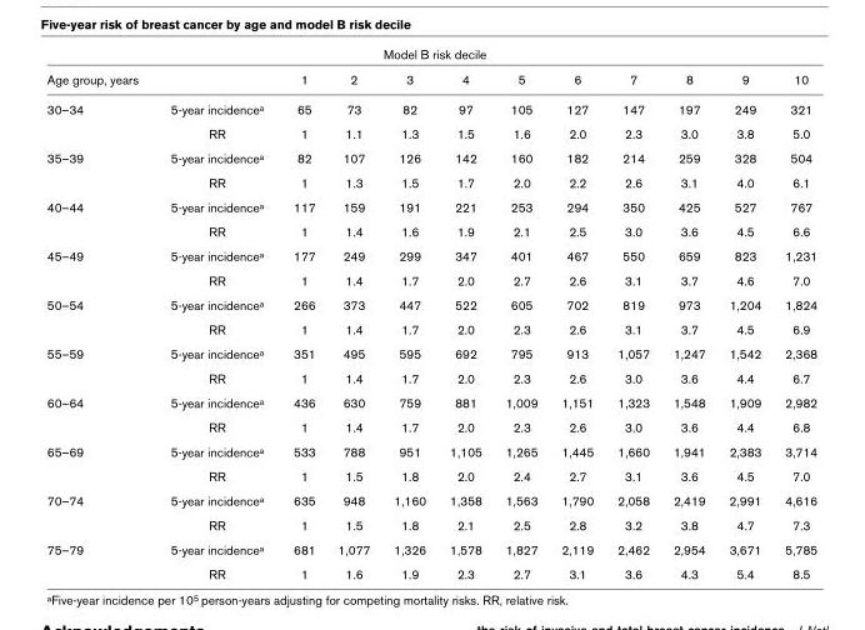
<table><thead><tr><td colspan="12">Model B risk decile</td></tr><tr><td>Age group, years</td><td></td><td>1</td><td>2</td><td>3</td><td>4</td><td>5</td><td>6</td><td>7</td><td>8</td><td>9</td><td>10</td></tr></thead><tbody><tr><td rowspan="2">30–34</td><td>5-year incidence<sup>a</sup></td><td>65</td><td>73</td><td>82</td><td>97</td><td>105</td><td>127</td><td>147</td><td>197</td><td>249</td><td>321</td></tr><tr><td>RR</td><td>1</td><td>1.1</td><td>1.3</td><td>1.5</td><td>1.6</td><td>2.0</td><td>2.3</td><td>3.0</td><td>3.8</td><td>5.0</td></tr><tr><td rowspan="2">35–39</td><td>5-year incidence<sup>a</sup></td><td>82</td><td>107</td><td>126</td><td>142</td><td>160</td><td>182</td><td>214</td><td>259</td><td>328</td><td>504</td></tr><tr><td>RR</td><td>1</td><td>1.3</td><td>1.5</td><td>1.7</td><td>2.0</td><td>2.2</td><td>2.6</td><td>3.1</td><td>4.0</td><td>6.1</td></tr><tr><td rowspan="2">40–44</td><td>5-year incidence<sup>a</sup></td><td>117</td><td>159</td><td>191</td><td>221</td><td>253</td><td>294</td><td>350</td><td>425</td><td>527</td><td>767</td></tr><tr><td>RR</td><td>1</td><td>1.4</td><td>1.6</td><td>1.9</td><td>2.1</td><td>2.5</td><td>3.0</td><td>3.6</td><td>4.5</td><td>6.6</td></tr><tr><td rowspan="2">45–49</td><td>5-year incidence<sup>a</sup></td><td>177</td><td>249</td><td>299</td><td>347</td><td>401</td><td>467</td><td>550</td><td>659</td><td>823</td><td>1,231</td></tr><tr><td>RR</td><td>1</td><td>1.4</td><td>1.7</td><td>2.0</td><td>2.7</td><td>2.6</td><td>3.1</td><td>3.7</td><td>4.6</td><td>7.0</td></tr><tr><td rowspan="2">50–54</td><td>5-year incidence<sup>a</sup></td><td>266</td><td>373</td><td>447</td><td>522</td><td>605</td><td>702</td><td>819</td><td>973</td><td>1,204</td><td>1,824</td></tr><tr><td>RR</td><td>1</td><td>1.4</td><td>1.7</td><td>2.0</td><td>2.3</td><td>2.6</td><td>3.1</td><td>3.7</td><td>4.5</td><td>6.9</td></tr><tr><td rowspan="2">55–59</td><td>5-year incidence<sup>a</sup></td><td>351</td><td>495</td><td>595</td><td>692</td><td>795</td><td>913</td><td>1,057</td><td>1,247</td><td>1,542</td><td>2,368</td></tr><tr><td>RR</td><td>1</td><td>1.4</td><td>1.7</td><td>2.0</td><td>2.3</td><td>2.6</td><td>3.0</td><td>3.6</td><td>4.4</td><td>6.7</td></tr><tr><td rowspan="2">60–64</td><td>5-year incidence<sup>a</sup></td><td>436</td><td>630</td><td>759</td><td>881</td><td>1,009</td><td>1,151</td><td>1,323</td><td>1,548</td><td>1,909</td><td>2,982</td></tr><tr><td>RR</td><td>1</td><td>1.4</td><td>1.7</td><td>2.0</td><td>2.3</td><td>2.6</td><td>3.0</td><td>3.6</td><td>4.4</td><td>6.8</td></tr><tr><td rowspan="2">65–69</td><td>5-year incidence<sup>a</sup></td><td>533</td><td>788</td><td>951</td><td>1,105</td><td>1,265</td><td>1,445</td><td>1,660</td><td>1,941</td><td>2,383</td><td>3,714</td></tr><tr><td>RR</td><td>1</td><td>1.5</td><td>1.8</td><td>2.0</td><td>2.4</td><td>2.7</td><td>3.1</td><td>3.6</td><td>4.5</td><td>7.0</td></tr><tr><td rowspan="2">70–74</td><td>5-year incidence<sup>a</sup></td><td>635</td><td>948</td><td>1,160</td><td>1,358</td><td>1,563</td><td>1,790</td><td>2,058</td><td>2,419</td><td>2,991</td><td>4,616</td></tr><tr><td>RR</td><td>1</td><td>1.5</td><td>1.8</td><td>2.1</td><td>2.5</td><td>2.8</td><td>3.2</td><td>3.8</td><td>4.7</td><td>7.3</td></tr><tr><td rowspan="2">75–79</td><td>5-year incidence<sup>a</sup></td><td>681</td><td>1,077</td><td>1,326</td><td>1,578</td><td>1,827</td><td>2,119</td><td>2,462</td><td>2,954</td><td>3,671</td><td>5,785</td></tr><tr><td>RR</td><td>1</td><td>1.6</td><td>1.9</td><td>2.3</td><td>2.7</td><td>3.1</td><td>3.6</td><td>4.3</td><td>5.4</td><td>8.5</td></tr></tbody></table>